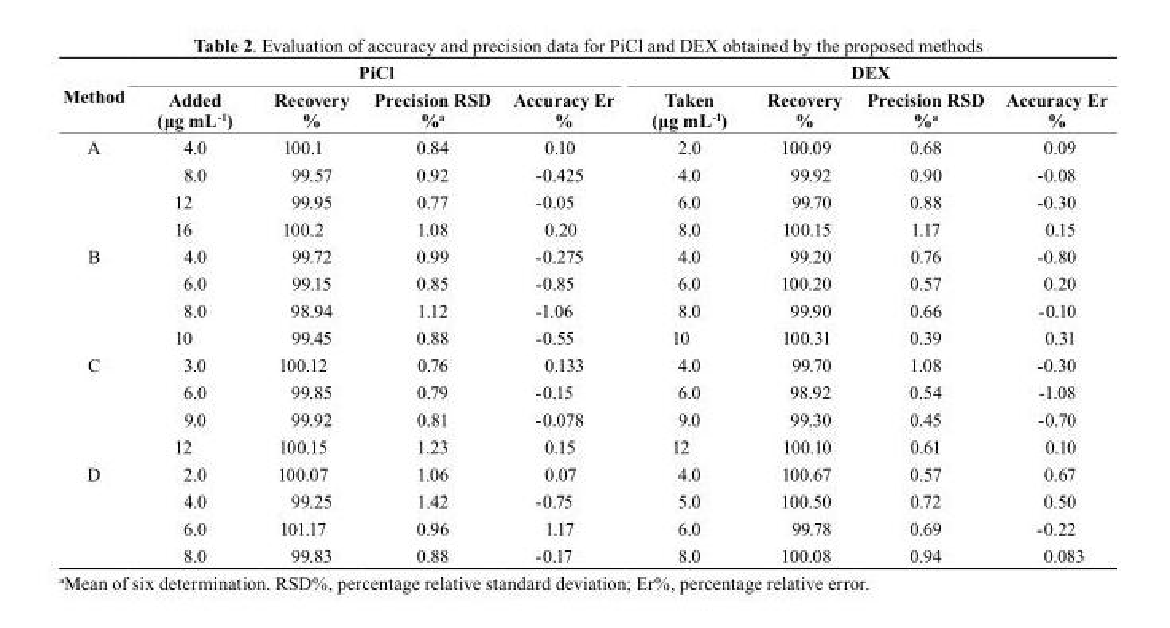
<table><thead><tr><td rowspan="2">Method</td><td colspan="4">Picl</td><td colspan="4">DEX</td></tr><tr><td>Added (μg mL<sup>-1</sup>)</td><td>recovery %</td><td>Precision rsD %<sup>a</sup></td><td>Accuracy Er %</td><td>taken (μg mL<sup>-1</sup>)</td><td>recovery %</td><td>Precision rsD %<sup>a</sup></td><td>Accuracy Er %</td></tr></thead><tbody><tr><td rowspan="4">A</td><td>4.0</td><td>100.1</td><td>0.84</td><td>0.10</td><td>2.0</td><td>100.09</td><td>0.68</td><td>0.09</td></tr><tr><td>8.0</td><td>99.57</td><td>0.92</td><td>-0.425</td><td>4.0</td><td>99.92</td><td>0.90</td><td>-0.08</td></tr><tr><td>12</td><td>99.95</td><td>0.77</td><td>-0.05</td><td>6.0</td><td>99.70</td><td>0.88</td><td>-0.30</td></tr><tr><td>16</td><td>100.2</td><td>1.08</td><td>0.20</td><td>8.0</td><td>100.15</td><td>1.17</td><td>0.15</td></tr><tr><td rowspan="4">B</td><td>4.0</td><td>99.72</td><td>0.99</td><td>-0.275</td><td>4.0</td><td>99.20</td><td>0.76</td><td>-0.80</td></tr><tr><td>6.0</td><td>99.15</td><td>0.85</td><td>-0.85</td><td>6.0</td><td>100.20</td><td>0.57</td><td>0.20</td></tr><tr><td>8.0</td><td>98.94</td><td>1.12</td><td>-1.06</td><td>8.0</td><td>99.90</td><td>0.66</td><td>-0.10</td></tr><tr><td>10</td><td>99.45</td><td>0.88</td><td>-0.55</td><td>10</td><td>100.31</td><td>0.39</td><td>0.31</td></tr><tr><td rowspan="4">C</td><td>3.0</td><td>100.12</td><td>0.76</td><td>0.133</td><td>4.0</td><td>99.70</td><td>1.08</td><td>-0.30</td></tr><tr><td>6.0</td><td>99.85</td><td>0.79</td><td>-0.15</td><td>6.0</td><td>98.92</td><td>0.54</td><td>-1.08</td></tr><tr><td>9.0</td><td>99.92</td><td>0.81</td><td>-0.078</td><td>9.0</td><td>99.30</td><td>0.45</td><td>-0.70</td></tr><tr><td>12</td><td>100.15</td><td>1.23</td><td>0.15</td><td>12</td><td>100.10</td><td>0.61</td><td>0.10</td></tr><tr><td rowspan="4">D</td><td>2.0</td><td>100.07</td><td>1.06</td><td>0.07</td><td>4.0</td><td>100.67</td><td>0.57</td><td>0.67</td></tr><tr><td>4.0</td><td>99.25</td><td>1.42</td><td>-0.75</td><td>5.0</td><td>100.50</td><td>0.72</td><td>0.50</td></tr><tr><td>6.0</td><td>101.17</td><td>0.96</td><td>1.17</td><td>6.0</td><td>99.78</td><td>0.69</td><td>-0.22</td></tr><tr><td>8.0</td><td>99.83</td><td>0.88</td><td>-0.17</td><td>8.0</td><td>100.08</td><td>0.94</td><td>0.083</td></tr></tbody></table>